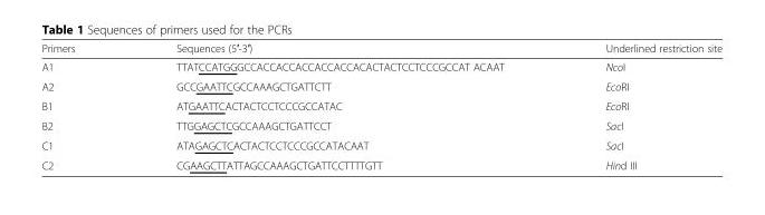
<table><thead><tr><td>Primers</td><td>Sequences (5′-3′)</td><td>Underlined restriction site</td></tr></thead><tbody><tr><td>A1</td><td>TTATCCATGGGCCACCACCACCACCACCACACTACTCCTCCCGCCAT ACAAT</td><td>NcoI</td></tr><tr><td>A2</td><td>GCCGAATTCGCCAAAGCTGATTCTT</td><td>EcoRI</td></tr><tr><td>B1</td><td>ATGAATTCACTACTCCTCCCGCCATAC</td><td>EcoRI</td></tr><tr><td>B2</td><td>TTGGAGCTCGCCAAAGCTGATTCCT</td><td>SacI</td></tr><tr><td>C1</td><td>ATAGAGCTCACTACTCCTCCCGCCATACAAT</td><td>SacI</td></tr><tr><td>C2</td><td>CGAAGCTTATTAGCCAAAGCTGATTCCTTTTGTT</td><td>Hind III</td></tr></tbody></table>